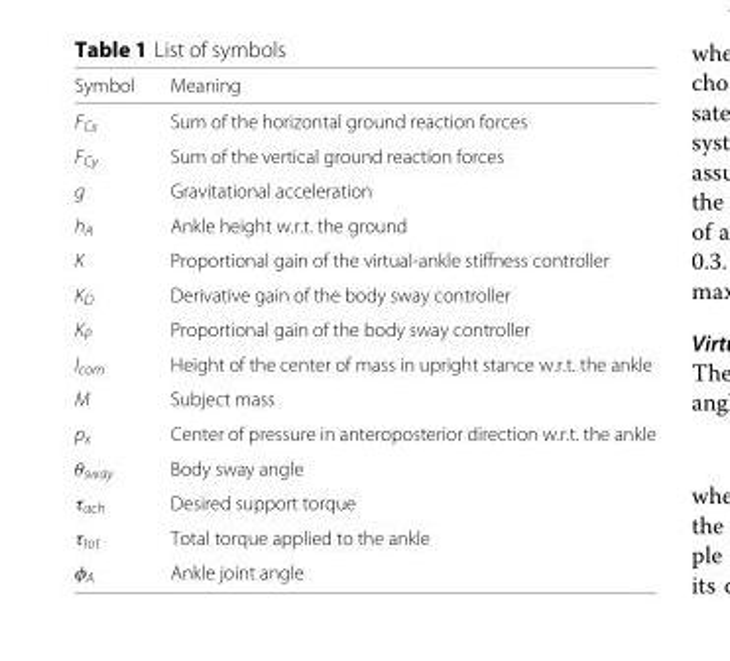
<table><thead><tr><td>Symbol</td><td>Meaning</td></tr></thead><tbody><tr><td>F<sub>Cx</sub></td><td>Sum of the horizontal ground reaction forces</td></tr><tr><td>F<sub>Cy</sub></td><td>Sum of the vertical ground reaction forces</td></tr><tr><td>g</td><td>Gravitational acceleration</td></tr><tr><td>h<sub>A</sub></td><td>Ankle height w.r.t. the ground</td></tr><tr><td>K</td><td>Proportional gain of the virtual-ankle stiffness controller</td></tr><tr><td>K<sub>D</sub></td><td>Derivative gain of the body sway controller</td></tr><tr><td>K<sub>P</sub></td><td>Proportional gain of the body sway controller</td></tr><tr><td>l<sub>com</sub></td><td>Height of the center of mass in upright stance w.r.t. the ankle</td></tr><tr><td>M</td><td>Subject mass</td></tr><tr><td>p<sub>x</sub></td><td>Center of pressure in anteroposterior direction w.r.t. the ankle</td></tr><tr><td>θ<sub>sway</sub></td><td>Body sway angle</td></tr><tr><td>τ<sub>ach</sub></td><td>Desired support torque</td></tr><tr><td>τ<sub>tot</sub></td><td>Total torque applied to the ankle</td></tr><tr><td>φ<sub>A</sub></td><td>Ankle joint angle</td></tr></tbody></table>